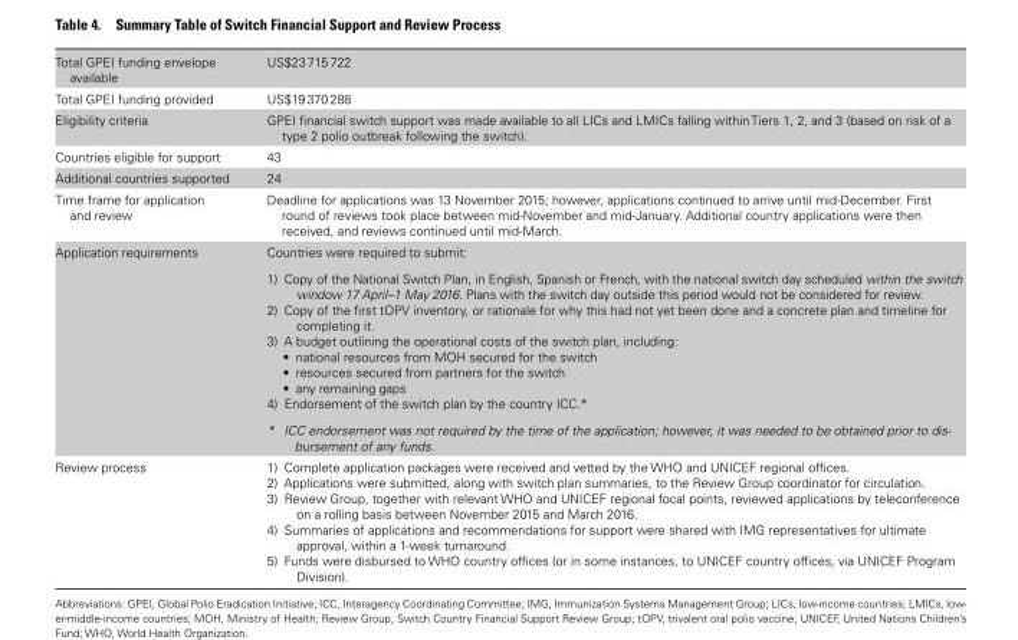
<table><tbody><tr><td>Total GPEI funding envelope available</td><td>US$23 715 722</td></tr><tr><td>Total GPEI funding provided</td><td>US$19 370 288</td></tr><tr><td>Eligibility criteria</td><td>GPEI financial switch support was made available to all LICs and LMICs falling within Tiers 1, 2, and 3 (based on risk of a type 2 polio outbreak following the switch).</td></tr><tr><td>Countries eligible for support</td><td>43</td></tr><tr><td>Additional countries supported</td><td>24</td></tr><tr><td>Time frame for application and review</td><td>Deadline for applications was 13 November 2015; however, applications continued to arrive until mid-December. First round of reviews took place between mid-November and mid-January. Additional country applications were then received, and reviews continued until mid-March.</td></tr><tr><td>Application requirements</td><td>Countries were required to submit: 1) Copy of the National Switch Plan, in English, Spanish or French, with the national switch day scheduled within the switch window 17 April–1 May 2016. Plans with the switch day outside this period would not be considered for review. 2) Copy of the first tOPV inventory, or rationale for why this had not yet been done and a concrete plan and timeline for completing it. 3) A budget outlining the operational costs of the switch plan, including: • national resources from MOH secured for the switch • resources secured from partners for the switch • any remaining gaps 4) Endorsement of the switch plan by the country ICC.* * ICC endorsement was not required by the time of the application; however, it was needed to be obtained prior to dis- bursement of any funds.</td></tr><tr><td>Review process</td><td>1) Complete application packages were received and vetted by the WHO and UNICEF regional offices. 2) Applications were submitted, along with switch plan summaries, to the Review Group coordinator for circulation. 3) Review Group, together with relevant WHO and UNICEF regional focal points, reviewed applications by teleconference on a rolling basis between November 2015 and March 2016. 4) Summaries of applications and recommendations for support were shared with IMG representatives for ultimate approval, within a 1-week turnaround. 5) Funds were disbursed to WHO country offices (or in some instances, to UNICEF country offices, via UNICEF Program Division).</td></tr></tbody></table>